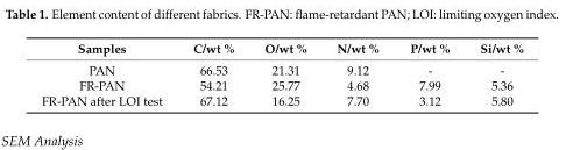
<table><thead><tr><td>Samples</td><td>C/wt %</td><td>O/wt %</td><td>N/wt %</td><td>P/wt %</td><td>Si/wt %</td></tr></thead><tbody><tr><td>PAN</td><td>66.53</td><td>21.31</td><td>9.12</td><td>-</td><td>-</td></tr><tr><td>FR-PAN</td><td>54.21</td><td>25.77</td><td>4.68</td><td>7.99</td><td>5.36</td></tr><tr><td>FR-PAN after LOI test</td><td>67.12</td><td>16.25</td><td>7.70</td><td>3.12</td><td>5.80</td></tr></tbody></table>